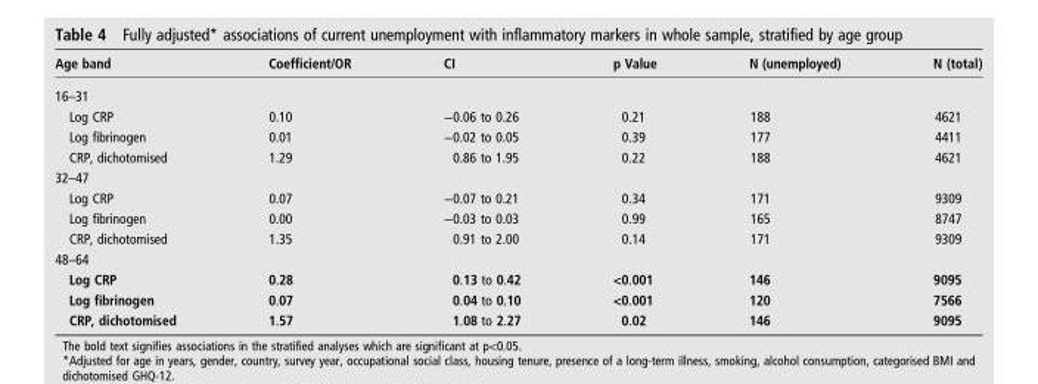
<table><thead><tr><td>Age band</td><td>Coefficient/OR</td><td>CI</td><td>p Value</td><td>N (unemployed)</td><td>N (total)</td></tr></thead><tbody><tr><td colspan="6">16–31</td></tr><tr><td>Log CRP</td><td>0.10</td><td>−0.06 to 0.26</td><td>0.21</td><td>188</td><td>4621</td></tr><tr><td>Log fibrinogen</td><td>0.01</td><td>−0.02 to 0.05</td><td>0.39</td><td>177</td><td>4411</td></tr><tr><td>CRP, dichotomised</td><td>1.29</td><td>0.86 to 1.95</td><td>0.22</td><td>188</td><td>4621</td></tr><tr><td colspan="6">32–47</td></tr><tr><td>Log CRP</td><td>0.07</td><td>−0.07 to 0.21</td><td>0.34</td><td>171</td><td>9309</td></tr><tr><td>Log fibrinogen</td><td>0.00</td><td>−0.03 to 0.03</td><td>0.99</td><td>165</td><td>8747</td></tr><tr><td>CRP, dichotomised</td><td>1.35</td><td>0.91 to 2.00</td><td>0.14</td><td>171</td><td>9309</td></tr><tr><td colspan="6">48–64</td></tr><tr><td>Log CRP</td><td>0.28</td><td>0.13 to 0.42</td><td>&lt;0.001</td><td>146</td><td>9095</td></tr><tr><td>Log fibrinogen</td><td>0.07</td><td>0.04 to 0.10</td><td>&lt;0.001</td><td>120</td><td>7566</td></tr><tr><td>CRP, dichotomised</td><td>1.57</td><td>1.08 to 2.27</td><td>0.02</td><td>146</td><td>9095</td></tr></tbody></table>